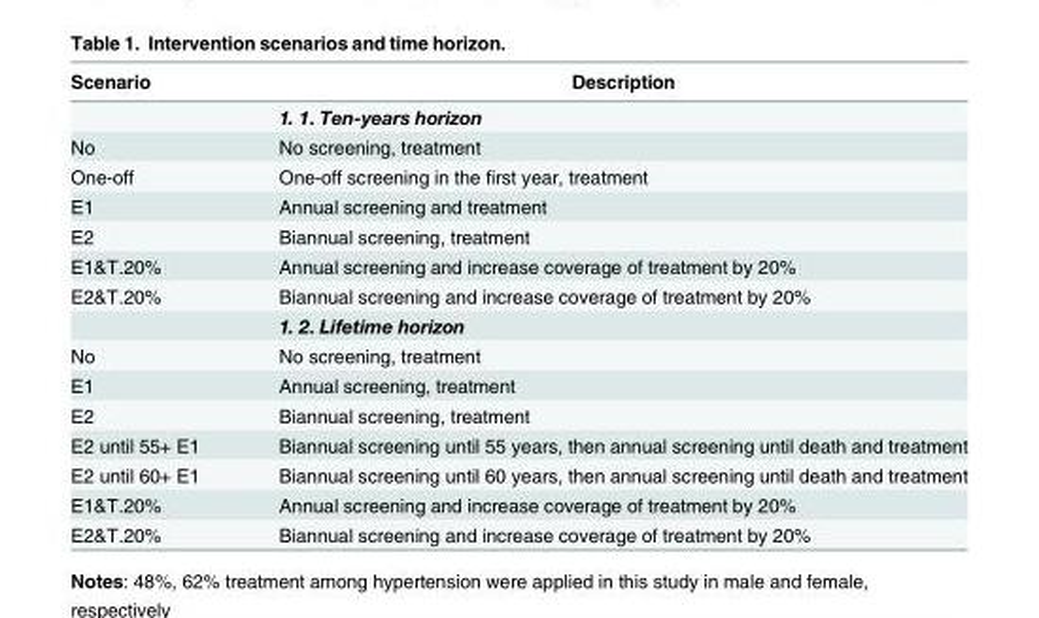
<table><thead><tr><td>Scenario</td><td>Description</td></tr></thead><tbody><tr><td></td><td>1. 1. Ten-years horizon</td></tr><tr><td>No</td><td>No screening, treatment</td></tr><tr><td>One-off</td><td>One-off screening in the first year, treatment</td></tr><tr><td>E1</td><td>Annual screening and treatment</td></tr><tr><td>E2</td><td>Biannual screening, treatment</td></tr><tr><td>E1&amp;T.20%</td><td>Annual screening and increase coverage of treatment by 20%</td></tr><tr><td rowspan="2">E2&amp;T.20%</td><td>Biannual screening and increase coverage of treatment by 20%</td></tr><tr><td>1. 2. Lifetime horizon</td></tr><tr><td>No</td><td>No screening, treatment</td></tr><tr><td>E1</td><td>Annual screening, treatment</td></tr><tr><td>E2</td><td>Biannual screening, treatment</td></tr><tr><td>E2 until 55+ E1</td><td>Biannual screening until 55 years, then annual screening until death and treatment</td></tr><tr><td>E2 until 60+ E1</td><td>Biannual screening until 60 years, then annual screening until death and treatment</td></tr><tr><td>E1&amp;T.20%</td><td>Annual screening and increase coverage of treatment by 20%</td></tr><tr><td>E2&amp;T.20%</td><td>Biannual screening and increase coverage of treatment by 20%</td></tr></tbody></table>